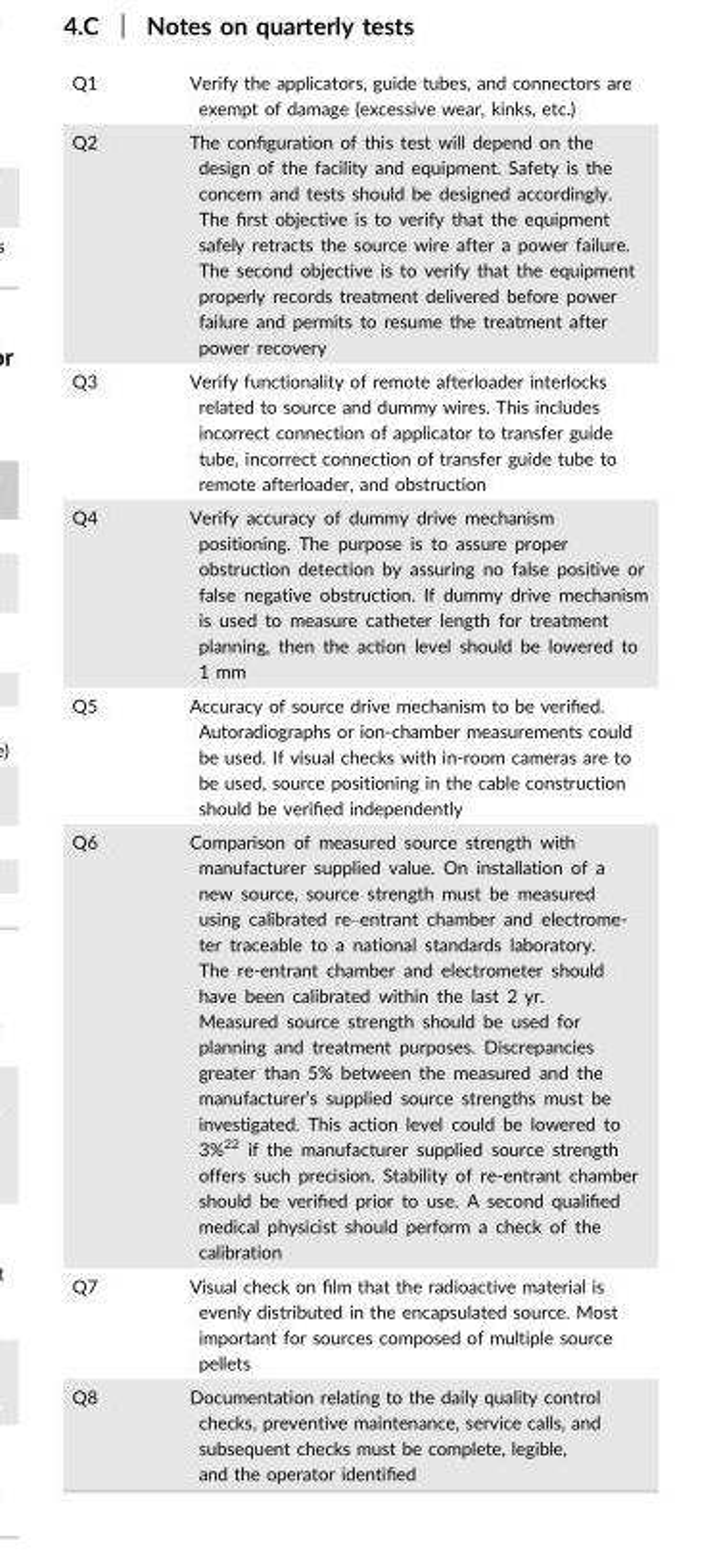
<table><tbody><tr><td>Q1</td><td>Verify the applicators, guide tubes, and connectors are exempt of damage (excessive wear, kinks, etc.)</td></tr><tr><td>Q2</td><td>The configuration of this test will depend on the design of the facility and equipment. Safety is the concern and tests should be designed accordingly. The first objective is to verify that the equipment safely retracts the source wire after a power failure. The second objective is to verify that the equipment properly records treatment delivered before power failure and permits to resume the treatment after power recovery</td></tr><tr><td>Q3</td><td>Verify functionality of remote afterloader interlocks related to source and dummy wires. This includes incorrect connection of applicator to transfer guide tube, incorrect connection of transfer guide tube to remote afterloader, and obstruction</td></tr><tr><td>Q4</td><td>Verify accuracy of dummy drive mechanism positioning. The purpose is to assure proper obstruction detection by assuring no false positive or false negative obstruction. If dummy drive mechanism is used to measure catheter length for treatment planning, then the action level should be lowered to 1 mm</td></tr><tr><td>Q5</td><td>Accuracy of source drive mechanism to be verified. Autoradiographs or ion-chamber measurements could be used. If visual checks with in-room cameras are to be used, source positioning in the cable construction should be verified independently</td></tr><tr><td>Q6</td><td>Comparison of measured source strength with manufacturer supplied value. On installation of a new source, source strength must be measured using calibrated re–entrant chamber and electrome- ter traceable to a national standards laboratory. The re-entrant chamber and electrometer should have been calibrated within the last 2 yr. Measured source strength should be used for planning and treatment purposes. Discrepancies greater than 5% between the measured and the manufacturer’s supplied source strengths must be investigated. This action level could be lowered to 3%22 if the manufacturer supplied source strength offers such precision. Stability of re-entrant chamber should be verified prior to use. A second qualified medical physicist should perform a check of the calibration</td></tr><tr><td>Q7</td><td>Visual check on film that the radioactive material is evenly distributed in the encapsulated source. Most important for sources composed of multiple source pellets</td></tr><tr><td>Q8</td><td>Documentation relating to the daily quality control checks, preventive maintenance, service calls, and subsequent checks must be complete, legible, and the operator identified</td></tr></tbody></table>